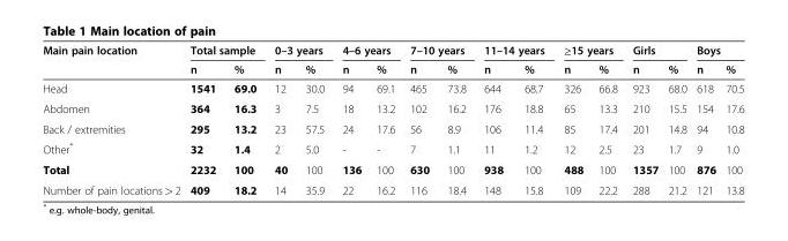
<table><thead><tr><td rowspan="2">Main pain location</td><td colspan="2">Total sample</td><td colspan="2">0–3 years</td><td colspan="2">4–6 years</td><td colspan="2">7–10 years</td><td colspan="2">11–14 years</td><td colspan="2">≥15 years</td><td colspan="2">Girls</td><td colspan="2">Boys</td></tr><tr><td>n</td><td>%</td><td>n</td><td>%</td><td>n</td><td>%</td><td>n</td><td>%</td><td>n</td><td>%</td><td>n</td><td>%</td><td>n</td><td>%</td><td>n</td><td>%</td></tr></thead><tbody><tr><td>Head</td><td>1541</td><td>69.0</td><td>12</td><td>30.0</td><td>94</td><td>69.1</td><td>465</td><td>73.8</td><td>644</td><td>68.7</td><td>326</td><td>66.8</td><td>923</td><td>68.0</td><td>618</td><td>70.5</td></tr><tr><td>Abdomen</td><td>364</td><td>16.3</td><td>3</td><td>7.5</td><td>18</td><td>13.2</td><td>102</td><td>16.2</td><td>176</td><td>18.8</td><td>65</td><td>13.3</td><td>210</td><td>15.5</td><td>154</td><td>17.6</td></tr><tr><td>Back / extremities</td><td>295</td><td>13.2</td><td>23</td><td>57.5</td><td>24</td><td>17.6</td><td>56</td><td>8.9</td><td>106</td><td>11.4</td><td>85</td><td>17.4</td><td>201</td><td>14.8</td><td>94</td><td>10.8</td></tr><tr><td>Other*</td><td>32</td><td>1.4</td><td>2</td><td>5.0</td><td>-</td><td>-</td><td>7</td><td>1.1</td><td>11</td><td>1.2</td><td>12</td><td>2.5</td><td>23</td><td>1.7</td><td>9</td><td>1.0</td></tr><tr><td>Total</td><td>2232</td><td>100</td><td>40</td><td>100</td><td>136</td><td>100</td><td>630</td><td>100</td><td>938</td><td>100</td><td>488</td><td>100</td><td>1357</td><td>100</td><td>876</td><td>100</td></tr><tr><td>Number of pain locations &gt; 2</td><td>409</td><td>18.2</td><td>14</td><td>35.9</td><td>22</td><td>16.2</td><td>116</td><td>18.4</td><td>148</td><td>15.8</td><td>109</td><td>22.2</td><td>288</td><td>21.2</td><td>121</td><td>13.8</td></tr></tbody></table>